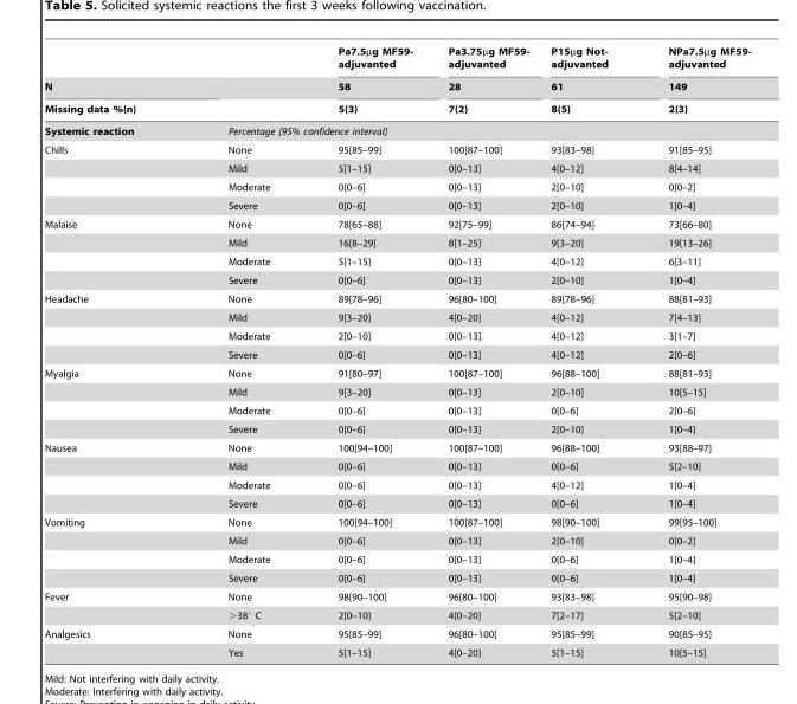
<table><thead><tr><td rowspan="3">N Missing data %(n)</td><td rowspan="3"></td><td rowspan="3">Pa7.5µg MF59- adjuvanted 58 5(3)</td><td rowspan="3">Pa3.75µg MF59- adjuvanted 28 7(2)</td><td rowspan="3">P15µg Not- adjuvanted 61 8(5)</td><td rowspan="3">NPa7.5µg MF59- adjuvanted 149 2(3)</td></tr><tr></tr><tr></tr></thead><tbody><tr><td>Systemic reaction</td><td colspan="5">Percentage [95% confidence interval]</td></tr><tr><td rowspan="4">Chills</td><td>None</td><td>95[85–99]</td><td>100[87–100]</td><td>93[83–98]</td><td>91[85–95]</td></tr><tr><td>Mild</td><td>5[1–15]</td><td>0[0–13]</td><td>4[0–12]</td><td>8[4–14]</td></tr><tr><td>Moderate</td><td>0[0–6]</td><td>0[0–13]</td><td>2[0–10]</td><td>0[0–2]</td></tr><tr><td>Severe</td><td>0[0–6]</td><td>0[0–13]</td><td>2[0–10]</td><td>1[0–4]</td></tr><tr><td rowspan="4">Malaise</td><td>None</td><td>78[65–88]</td><td>92[75–99]</td><td>86[74–94]</td><td>73[66–80]</td></tr><tr><td>Mild</td><td>16[8–29]</td><td>8[1–25]</td><td>9[3–20]</td><td>19[13–26]</td></tr><tr><td>Moderate</td><td>5[1–15]</td><td>0[0–13]</td><td>4[0–12]</td><td>6[3–11]</td></tr><tr><td>Severe</td><td>0[0–6]</td><td>0[0–13]</td><td>2[0–10]</td><td>1[0–4]</td></tr><tr><td rowspan="4">Headache</td><td>None</td><td>89[78–96]</td><td>96[80–100]</td><td>89[78–96]</td><td>88[81–93]</td></tr><tr><td>Mild</td><td>9[3–20]</td><td>4[0–20]</td><td>4[0–12]</td><td>7[4–13]</td></tr><tr><td>Moderate</td><td>2[0–10]</td><td>0[0–13]</td><td>4[0–12]</td><td>3[1–7]</td></tr><tr><td>Severe</td><td>0[0–6]</td><td>0[0–13]</td><td>4[0–12]</td><td>2[0–6]</td></tr><tr><td rowspan="4">Myalgia</td><td>None</td><td>91[80–97]</td><td>100[87–100]</td><td>96[88–100]</td><td>88[81–93]</td></tr><tr><td>Mild</td><td>9[3–20]</td><td>0[0–13]</td><td>2[0–10]</td><td>10[5–15]</td></tr><tr><td>Moderate</td><td>0[0–6]</td><td>0[0–13]</td><td>0[0–6]</td><td>2[0–6]</td></tr><tr><td>Severe</td><td>0[0–6]</td><td>0[0–13]</td><td>2[0–10]</td><td>1[0–4]</td></tr><tr><td rowspan="4">Nausea</td><td>None</td><td>100[94–100]</td><td>100[87–100]</td><td>96[88–100]</td><td>93[88–97]</td></tr><tr><td>Mild</td><td>0[0–6]</td><td>0[0–13]</td><td>0[0–6]</td><td>5[2–10]</td></tr><tr><td>Moderate</td><td>0[0–6]</td><td>0[0–13]</td><td>4[0–12]</td><td>1[0–4]</td></tr><tr><td>Severe</td><td>0[0–6]</td><td>0[0–13]</td><td>0[0–6]</td><td>1[0–4]</td></tr><tr><td rowspan="4">Vomiting</td><td>None</td><td>100[94–100]</td><td>100[87–100]</td><td>98[90–100]</td><td>99[95–100]</td></tr><tr><td>Mild</td><td>0[0–6]</td><td>0[0–13]</td><td>2[0–10]</td><td>0[0–2]</td></tr><tr><td>Moderate</td><td>0[0–6]</td><td>0[0–13]</td><td>0[0–6]</td><td>1[0–4]</td></tr><tr><td>Severe</td><td>0[0–6]</td><td>0[0–13]</td><td>0[0–6]</td><td>1[0–4]</td></tr><tr><td rowspan="2">Fever</td><td>None</td><td>98[90–100]</td><td>96[80–100]</td><td>93[83–98]</td><td>95[90–98]</td></tr><tr><td>&gt;38° C</td><td>2[0–10]</td><td>4[0–20]</td><td>7[2–17]</td><td>5[2–10]</td></tr><tr><td rowspan="2">Analgesics</td><td>None</td><td>95[85–99]</td><td>96[80–100]</td><td>95[85–99]</td><td>90[85–95]</td></tr><tr><td>Yes</td><td>5[1–15]</td><td>4[0–20]</td><td>5[1–15]</td><td>10[5–15]</td></tr></tbody></table>